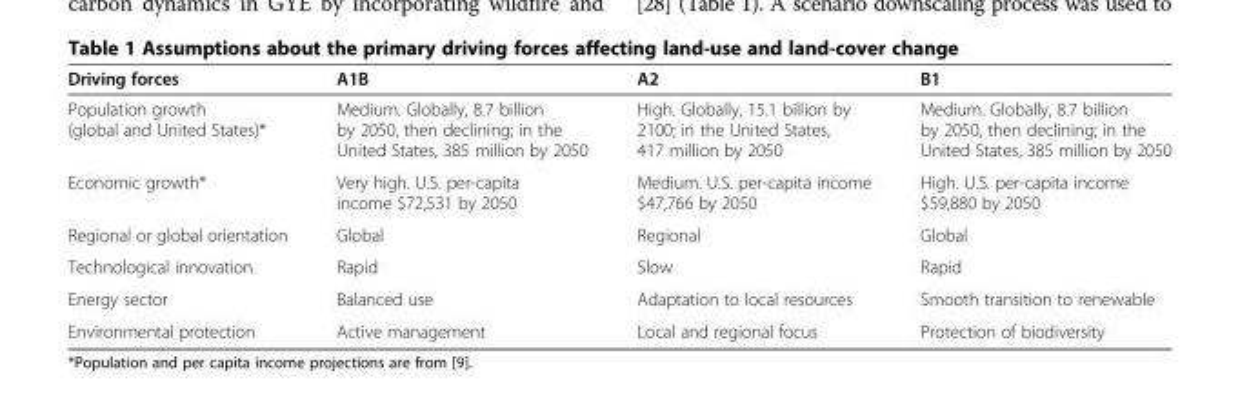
<table><thead><tr><td>Driving forces</td><td>A1B</td><td>A2</td><td>B1</td></tr></thead><tbody><tr><td>Population growth (global and United States)*</td><td>Medium. Globally, 8.7 billion by 2050, then declining; in the United States, 385 million by 2050</td><td>High. Globally, 15.1 billion by 2100; in the United States, 417 million by 2050</td><td>Medium. Globally, 8.7 billion by 2050, then declining; in the United States, 385 million by 2050</td></tr><tr><td>Economic growth*</td><td>Very high. U.S. per-capita income $72,531 by 2050</td><td>Medium. U.S. per-capita income $47,766 by 2050</td><td>High. U.S. per-capita income $59,880 by 2050</td></tr><tr><td>Regional or global orientation</td><td>Global</td><td>Regional</td><td>Global</td></tr><tr><td>Technological innovation</td><td>Rapid</td><td>Slow</td><td>Rapid</td></tr><tr><td>Energy sector</td><td>Balanced use</td><td>Adaptation to local resources</td><td>Smooth transition to renewable</td></tr><tr><td>Environmental protection</td><td>Active management</td><td>Local and regional focus</td><td>Protection of biodiversity</td></tr></tbody></table>